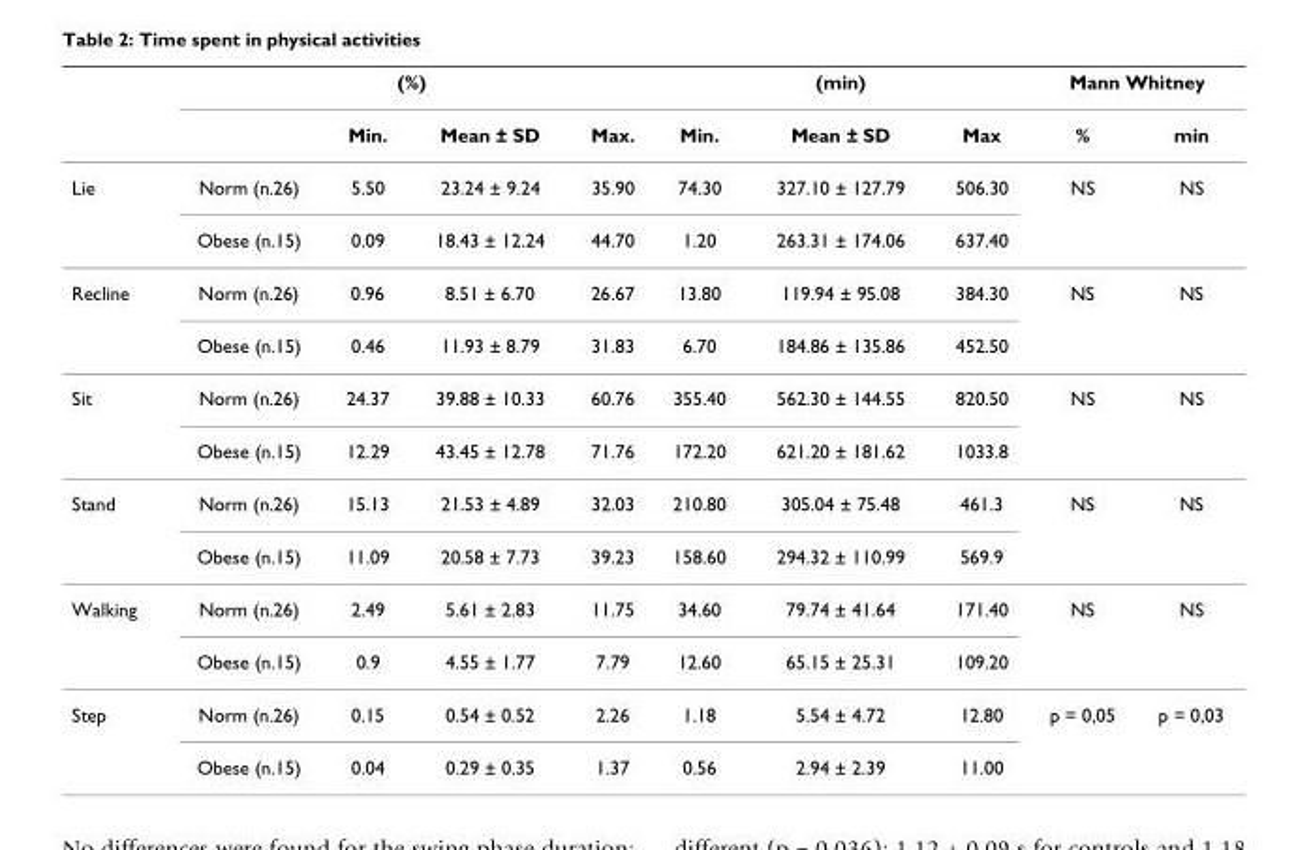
<table><thead><tr><td rowspan="2"></td><td colspan="4">(%)</td><td colspan="3">(min)</td><td colspan="2">Mann Whitney</td></tr><tr><td></td><td>Min.</td><td>Mean ± SD</td><td>Max.</td><td>Min.</td><td>Mean ± SD</td><td>Max</td><td>%</td><td>min</td></tr></thead><tbody><tr><td rowspan="2">Lie</td><td>Norm (n.26)</td><td>5.50</td><td>23.24 ± 9.24</td><td>35.90</td><td>74.30</td><td>327.10 ± 127.79</td><td>506.30</td><td>NS</td><td>NS</td></tr><tr><td>Obese (n.15)</td><td>0.09</td><td>18.43 ± 12.24</td><td>44.70</td><td>1.20</td><td>263.31 ± 174.06</td><td>637.40</td><td></td><td></td></tr><tr><td rowspan="2">Recline</td><td>Norm (n.26)</td><td>0.96</td><td>8.51 ± 6.70</td><td>26.67</td><td>13.80</td><td>119.94 ± 95.08</td><td>384.30</td><td>NS</td><td>NS</td></tr><tr><td>Obese (n.15)</td><td>0.46</td><td>11.93 ± 8.79</td><td>31.83</td><td>6.70</td><td>184.86 ± 135.86</td><td>452.50</td><td></td><td></td></tr><tr><td rowspan="2">Sit</td><td>Norm (n.26)</td><td>24.37</td><td>39.88 ± 10.33</td><td>60.76</td><td>355.40</td><td>562.30 ± 144.55</td><td>820.50</td><td>NS</td><td>NS</td></tr><tr><td>Obese (n.15)</td><td>12.29</td><td>43.45 ± 12.78</td><td>71.76</td><td>172.20</td><td>621.20 ± 181.62</td><td>1033.8</td><td></td><td></td></tr><tr><td rowspan="2">Stand</td><td>Norm (n.26)</td><td>15.13</td><td>21.53 ± 4.89</td><td>32.03</td><td>210.80</td><td>305.04 ± 75.48</td><td>461.3</td><td>NS</td><td>NS</td></tr><tr><td>Obese (n.15)</td><td>11.09</td><td>20.58 ± 7.73</td><td>39.23</td><td>158.60</td><td>294.32 ± 110.99</td><td>569.9</td><td></td><td></td></tr><tr><td rowspan="2">Walking</td><td>Norm (n.26)</td><td>2.49</td><td>5.61 ± 2.83</td><td>11.75</td><td>34.60</td><td>79.74 ± 41.64</td><td>171.40</td><td>NS</td><td>NS</td></tr><tr><td>Obese (n.15)</td><td>0.9</td><td>4.55 ± 1.77</td><td>7.79</td><td>12.60</td><td>65.15 ± 25.31</td><td>109.20</td><td></td><td></td></tr><tr><td rowspan="2">Step</td><td>Norm (n.26)</td><td>0.15</td><td>0.54 ± 0.52</td><td>2.26</td><td>1.18</td><td>5.54 ± 4.72</td><td>12.80</td><td>p = 0,05</td><td>p = 0,03</td></tr><tr><td>Obese (n.15)</td><td>0.04</td><td>0.29 ± 0.35</td><td>1.37</td><td>0.56</td><td>2.94 ± 2.39</td><td>11.00</td><td></td><td></td></tr></tbody></table>